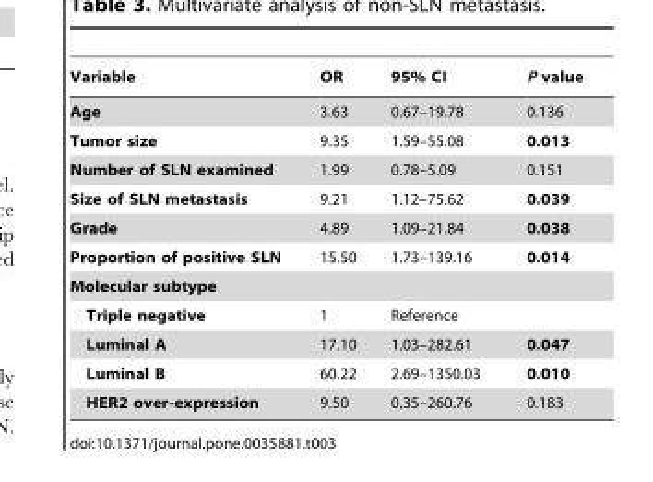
<table><thead><tr><td>Variable</td><td>OR</td><td>95% CI</td><td>P value</td></tr></thead><tbody><tr><td>Age</td><td>3.63</td><td>0.67–19.78</td><td>0.136</td></tr><tr><td>Tumor size</td><td>9.35</td><td>1.59–55.08</td><td>0.013</td></tr><tr><td>Number of SLN examined</td><td>1.99</td><td>0.78–5.09</td><td>0.151</td></tr><tr><td>Size of SLN metastasis</td><td>9.21</td><td>1.12–75.62</td><td>0.039</td></tr><tr><td>Grade</td><td>4.89</td><td>1.09–21.84</td><td>0.038</td></tr><tr><td>Proportion of positive SLN</td><td>15.50</td><td>1.73–139.16</td><td>0.014</td></tr><tr><td colspan="4">Molecular subtype</td></tr><tr><td>Triple negative</td><td>1</td><td>Reference</td><td></td></tr><tr><td>Luminal A</td><td>17.10</td><td>1.03–282.61</td><td>0.047</td></tr><tr><td>Luminal B</td><td>60.22</td><td>2.69–1350.03</td><td>0.010</td></tr><tr><td>HER2 over-expression</td><td>9.50</td><td>0.35–260.76</td><td>0.183</td></tr></tbody></table>